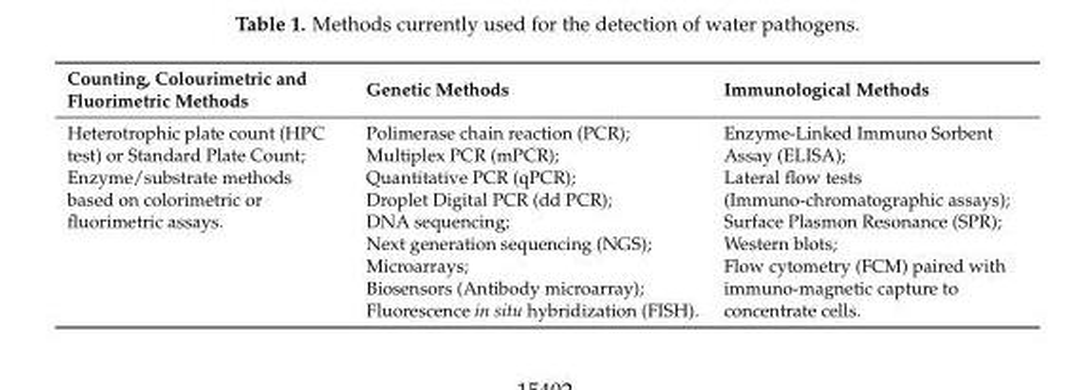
<table><thead><tr><td>Counting, Colourimetric and Fluorimetric Methods</td><td>Genetic Methods</td><td>Immunological Methods</td></tr></thead><tbody><tr><td>Heterotrophic plate count (HPC test) or Standard Plate Count; Enzyme/substrate methods based on colorimetric or fluorimetric assays.</td><td>Polimerase chain reaction (PCR); Multiplex PCR (mPCR); Quantitative PCR (qPCR); Droplet Digital PCR (dd PCR); DNA sequencing; Next generation sequencing (NGS); Microarrays; Biosensors (Antibody microarray); Fluorescence in situ hybridization (FISH).</td><td>Enzyme-Linked Immuno Sorbent Assay (ELISA); Lateral flow tests (Immuno-chromatographic assays); Surface Plasmon Resonance (SPR); Western blots; Flow cytometry (FCM) paired with immuno-magnetic capture to concentrate cells.</td></tr></tbody></table>